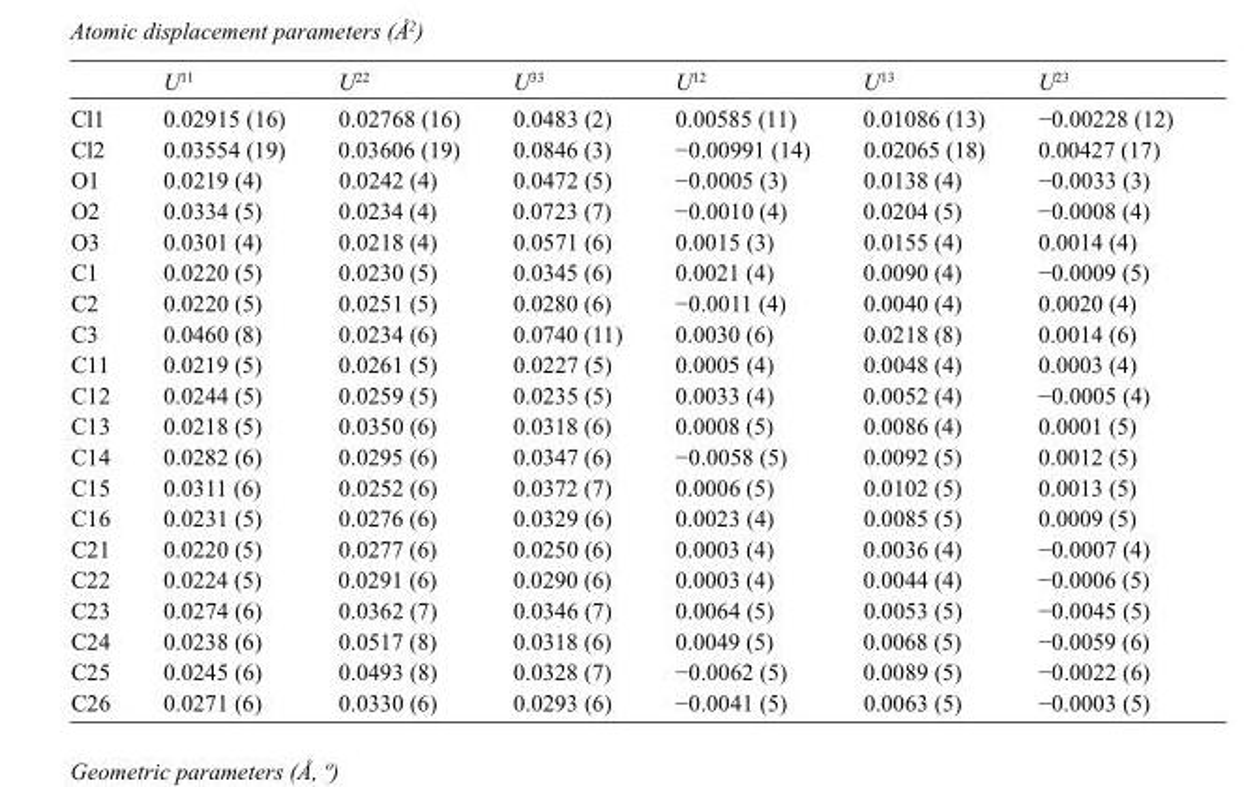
<table><thead><tr><td></td><td>U<sup>11</sup></td><td>U<sup>22</sup></td><td>U<sup>33</sup></td><td>U<sup>12</sup></td><td>U<sup>13</sup></td><td>U<sup>23</sup></td></tr></thead><tbody><tr><td>Cl1</td><td>0.02915 (16)</td><td>0.02768 (16)</td><td>0.0483 (2)</td><td>0.00585 (11)</td><td>0.01086 (13)</td><td>−0.00228 (12)</td></tr><tr><td>Cl2</td><td>0.03554 (19)</td><td>0.03606 (19)</td><td>0.0846 (3)</td><td>−0.00991 (14)</td><td>0.02065 (18)</td><td>0.00427 (17)</td></tr><tr><td>O1</td><td>0.0219 (4)</td><td>0.0242 (4)</td><td>0.0472 (5)</td><td>−0.0005 (3)</td><td>0.0138 (4)</td><td>−0.0033 (3)</td></tr><tr><td>O2</td><td>0.0334 (5)</td><td>0.0234 (4)</td><td>0.0723 (7)</td><td>−0.0010 (4)</td><td>0.0204 (5)</td><td>−0.0008 (4)</td></tr><tr><td>O3</td><td>0.0301 (4)</td><td>0.0218 (4)</td><td>0.0571 (6)</td><td>0.0015 (3)</td><td>0.0155 (4)</td><td>0.0014 (4)</td></tr><tr><td>C1</td><td>0.0220 (5)</td><td>0.0230 (5)</td><td>0.0345 (6)</td><td>0.0021 (4)</td><td>0.0090 (4)</td><td>−0.0009 (5)</td></tr><tr><td>C2</td><td>0.0220 (5)</td><td>0.0251 (5)</td><td>0.0280 (6)</td><td>−0.0011 (4)</td><td>0.0040 (4)</td><td>0.0020 (4)</td></tr><tr><td>C3</td><td>0.0460 (8)</td><td>0.0234 (6)</td><td>0.0740 (11)</td><td>0.0030 (6)</td><td>0.0218 (8)</td><td>0.0014 (6)</td></tr><tr><td>C11</td><td>0.0219 (5)</td><td>0.0261 (5)</td><td>0.0227 (5)</td><td>0.0005 (4)</td><td>0.0048 (4)</td><td>0.0003 (4)</td></tr><tr><td>C12</td><td>0.0244 (5)</td><td>0.0259 (5)</td><td>0.0235 (5)</td><td>0.0033 (4)</td><td>0.0052 (4)</td><td>−0.0005 (4)</td></tr><tr><td>C13</td><td>0.0218 (5)</td><td>0.0350 (6)</td><td>0.0318 (6)</td><td>0.0008 (5)</td><td>0.0086 (4)</td><td>0.0001 (5)</td></tr><tr><td>C14</td><td>0.0282 (6)</td><td>0.0295 (6)</td><td>0.0347 (6)</td><td>−0.0058 (5)</td><td>0.0092 (5)</td><td>0.0012 (5)</td></tr><tr><td>C15</td><td>0.0311 (6)</td><td>0.0252 (6)</td><td>0.0372 (7)</td><td>0.0006 (5)</td><td>0.0102 (5)</td><td>0.0013 (5)</td></tr><tr><td>C16</td><td>0.0231 (5)</td><td>0.0276 (6)</td><td>0.0329 (6)</td><td>0.0023 (4)</td><td>0.0085 (5)</td><td>0.0009 (5)</td></tr><tr><td>C21</td><td>0.0220 (5)</td><td>0.0277 (6)</td><td>0.0250 (6)</td><td>0.0003 (4)</td><td>0.0036 (4)</td><td>−0.0007 (4)</td></tr><tr><td>C22</td><td>0.0224 (5)</td><td>0.0291 (6)</td><td>0.0290 (6)</td><td>0.0003 (4)</td><td>0.0044 (4)</td><td>−0.0006 (5)</td></tr><tr><td>C23</td><td>0.0274 (6)</td><td>0.0362 (7)</td><td>0.0346 (7)</td><td>0.0064 (5)</td><td>0.0053 (5)</td><td>−0.0045 (5)</td></tr><tr><td>C24</td><td>0.0238 (6)</td><td>0.0517 (8)</td><td>0.0318 (6)</td><td>0.0049 (5)</td><td>0.0068 (5)</td><td>−0.0059 (6)</td></tr><tr><td>C25</td><td>0.0245 (6)</td><td>0.0493 (8)</td><td>0.0328 (7)</td><td>−0.0062 (5)</td><td>0.0089 (5)</td><td>−0.0022 (6)</td></tr><tr><td>C26</td><td>0.0271 (6)</td><td>0.0330 (6)</td><td>0.0293 (6)</td><td>−0.0041 (5)</td><td>0.0063 (5)</td><td>−0.0003 (5)</td></tr></tbody></table>